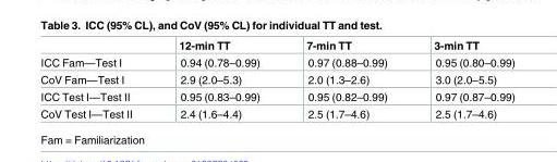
<table><thead><tr><td></td><td>12-min TT</td><td>7-min TT</td><td>3-min TT</td></tr></thead><tbody><tr><td>ICC Fam—Test I</td><td>0.94 (0.78–0.99)</td><td>0.97 (0.88–0.99)</td><td>0.95 (0.80–0.99)</td></tr><tr><td>CoV Fam—Test I</td><td>2.9 (2.0–5.3)</td><td>2.0 (1.3–2.6)</td><td>3.0 (2.0–5.5)</td></tr><tr><td>ICC Test I—Test II</td><td>0.95 (0.83–0.99)</td><td>0.95 (0.82–0.99)</td><td>0.97 (0.87–0.99)</td></tr><tr><td>CoV Test I—Test II</td><td>2.4 (1.6–4.4)</td><td>2.5 (1.7–4.6)</td><td>2.5 (1.7–4.6)</td></tr></tbody></table>